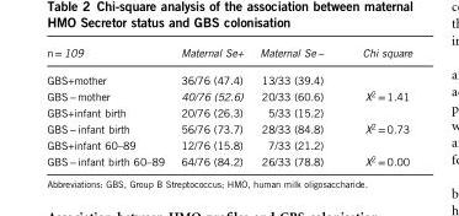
<table><thead><tr><td>n = 109</td><td>Maternal Se+</td><td>Maternal Se−</td><td>Chi square</td></tr></thead><tbody><tr><td>GBS+mother</td><td>36/76 (47.4)</td><td>13/33 (39.4)</td><td></td></tr><tr><td>GBS − mother</td><td>40/76 (52.6)</td><td>20/33 (60.6)</td><td>X<sup>2</sup> = 1.41</td></tr><tr><td>GBS+infant birth</td><td>20/76 (26.3)</td><td>5/33 (15.2)</td><td></td></tr><tr><td>GBS − infant birth</td><td>56/76 (73.7)</td><td>28/33 (84.8)</td><td>X<sup>2</sup> = 0.73</td></tr><tr><td>GBS+infant 60–89</td><td>12/76 (15.8)</td><td>7/33 (21.2)</td><td></td></tr><tr><td>GBS − infant birth 60–89</td><td>64/76 (84.2)</td><td>26/33 (78.8)</td><td>X<sup>2</sup> = 0.00</td></tr></tbody></table>